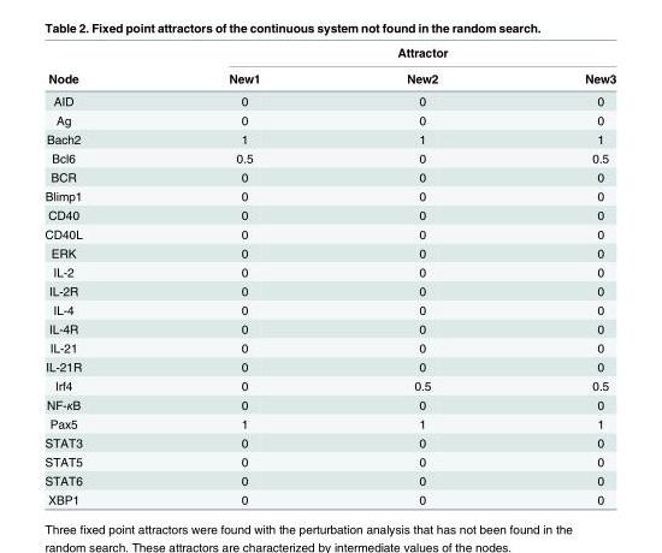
<table><thead><tr><td rowspan="2">Node</td><td colspan="3">Attractor</td></tr><tr><td>New1</td><td>New2</td><td>New3</td></tr></thead><tbody><tr><td>AID</td><td>0</td><td>0</td><td>0</td></tr><tr><td>Ag</td><td>0</td><td>0</td><td>0</td></tr><tr><td>Bach2</td><td>1</td><td>1</td><td>1</td></tr><tr><td>Bcl6</td><td>0.5</td><td>0</td><td>0.5</td></tr><tr><td>BCR</td><td>0</td><td>0</td><td>0</td></tr><tr><td>Blimp1</td><td>0</td><td>0</td><td>0</td></tr><tr><td>CD40</td><td>0</td><td>0</td><td>0</td></tr><tr><td>CD40L</td><td>0</td><td>0</td><td>0</td></tr><tr><td>ERK</td><td>0</td><td>0</td><td>0</td></tr><tr><td>IL-2</td><td>0</td><td>0</td><td>0</td></tr><tr><td>IL-2R</td><td>0</td><td>0</td><td>0</td></tr><tr><td>IL-4</td><td>0</td><td>0</td><td>0</td></tr><tr><td>IL-4R</td><td>0</td><td>0</td><td>0</td></tr><tr><td>IL-21</td><td>0</td><td>0</td><td>0</td></tr><tr><td>IL-21R</td><td>0</td><td>0</td><td>0</td></tr><tr><td>Irf4</td><td>0</td><td>0.5</td><td>0.5</td></tr><tr><td>NF-κB</td><td>0</td><td>0</td><td>0</td></tr><tr><td>Pax5</td><td>1</td><td>1</td><td>1</td></tr><tr><td>STAT3</td><td>0</td><td>0</td><td>0</td></tr><tr><td>STAT5</td><td>0</td><td>0</td><td>0</td></tr><tr><td>STAT6</td><td>0</td><td>0</td><td>0</td></tr><tr><td>XBP1</td><td>0</td><td>0</td><td>0</td></tr></tbody></table>